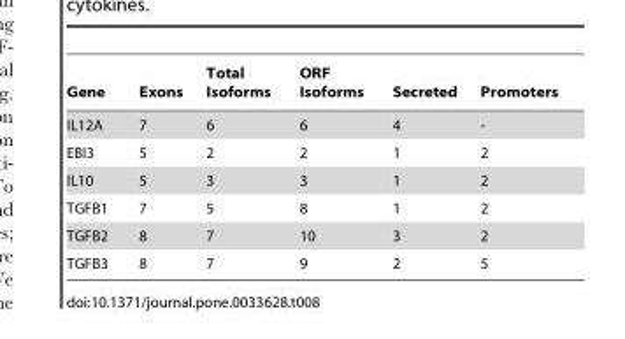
<table><thead><tr><td>Gene</td><td>Exons</td><td>Total Isoforms</td><td>ORF Isoforms</td><td>Secreted</td><td>Promoters</td></tr></thead><tbody><tr><td>IL12A</td><td>7</td><td>6</td><td>6</td><td>4</td><td>-</td></tr><tr><td>EBI3</td><td>5</td><td>2</td><td>2</td><td>1</td><td>2</td></tr><tr><td>IL10</td><td>5</td><td>3</td><td>3</td><td>1</td><td>2</td></tr><tr><td>TGFB1</td><td>7</td><td>5</td><td>8</td><td>1</td><td>2</td></tr><tr><td>TGFB2</td><td>8</td><td>7</td><td>10</td><td>3</td><td>2</td></tr><tr><td>TGFB3</td><td>8</td><td>7</td><td>9</td><td>2</td><td>5</td></tr></tbody></table>